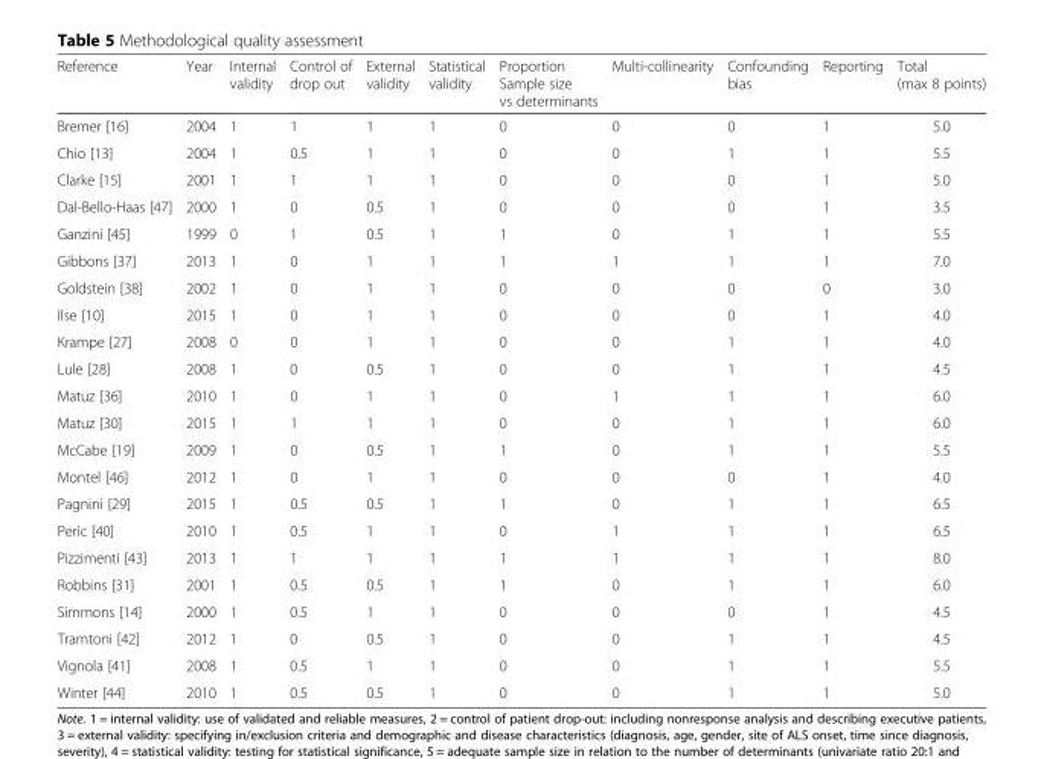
<table><thead><tr><td>Reference</td><td>Year</td><td>Internal validity</td><td>Control of drop out</td><td>External validity</td><td>Statistical validity</td><td>Proportion Sample size vs determinants</td><td>Multi-collinearity</td><td>Confounding bias</td><td>Reporting</td><td>Total (max 8 points)</td></tr></thead><tbody><tr><td>Bremer [16]</td><td>2004</td><td>1</td><td>1</td><td>1</td><td>1</td><td>0</td><td>0</td><td>0</td><td>1</td><td>5.0</td></tr><tr><td>Chio [13]</td><td>2004</td><td>1</td><td>0.5</td><td>1</td><td>1</td><td>0</td><td>0</td><td>1</td><td>1</td><td>5.5</td></tr><tr><td>Clarke [15]</td><td>2001</td><td>1</td><td>1</td><td>1</td><td>1</td><td>0</td><td>0</td><td>0</td><td>1</td><td>5.0</td></tr><tr><td>Dal-Bello-Haas [47]</td><td>2000</td><td>1</td><td>0</td><td>0.5</td><td>1</td><td>0</td><td>0</td><td>0</td><td>1</td><td>3.5</td></tr><tr><td>Ganzini [45]</td><td>1999</td><td>0</td><td>1</td><td>0.5</td><td>1</td><td>1</td><td>0</td><td>1</td><td>1</td><td>5.5</td></tr><tr><td>Gibbons [37]</td><td>2013</td><td>1</td><td>0</td><td>1</td><td>1</td><td>1</td><td>1</td><td>1</td><td>1</td><td>7.0</td></tr><tr><td>Goldstein [38]</td><td>2002</td><td>1</td><td>0</td><td>1</td><td>1</td><td>0</td><td>0</td><td>0</td><td>0</td><td>3.0</td></tr><tr><td>Ilse [10]</td><td>2015</td><td>1</td><td>0</td><td>1</td><td>1</td><td>0</td><td>0</td><td>0</td><td>1</td><td>4.0</td></tr><tr><td>Krampe [27]</td><td>2008</td><td>0</td><td>0</td><td>1</td><td>1</td><td>0</td><td>0</td><td>1</td><td>1</td><td>4.0</td></tr><tr><td>Lule [28]</td><td>2008</td><td>1</td><td>0</td><td>0.5</td><td>1</td><td>0</td><td>0</td><td>1</td><td>1</td><td>4.5</td></tr><tr><td>Matuz [36]</td><td>2010</td><td>1</td><td>0</td><td>1</td><td>1</td><td>0</td><td>1</td><td>1</td><td>1</td><td>6.0</td></tr><tr><td>Matuz [30]</td><td>2015</td><td>1</td><td>1</td><td>1</td><td>1</td><td>0</td><td>0</td><td>1</td><td>1</td><td>6.0</td></tr><tr><td>McCabe [19]</td><td>2009</td><td>1</td><td>0</td><td>0.5</td><td>1</td><td>1</td><td>0</td><td>1</td><td>1</td><td>5.5</td></tr><tr><td>Montel [46]</td><td>2012</td><td>1</td><td>0</td><td>1</td><td>1</td><td>0</td><td>0</td><td>0</td><td>1</td><td>4.0</td></tr><tr><td>Pagnini [29]</td><td>2015</td><td>1</td><td>0.5</td><td>0.5</td><td>1</td><td>1</td><td>0</td><td>1</td><td>1</td><td>6.5</td></tr><tr><td>Peric [40]</td><td>2010</td><td>1</td><td>0.5</td><td>1</td><td>1</td><td>0</td><td>1</td><td>1</td><td>1</td><td>6.5</td></tr><tr><td>Pizzimenti [43]</td><td>2013</td><td>1</td><td>1</td><td>1</td><td>1</td><td>1</td><td>1</td><td>1</td><td>1</td><td>8.0</td></tr><tr><td>Robbins [31]</td><td>2001</td><td>1</td><td>0.5</td><td>0.5</td><td>1</td><td>1</td><td>0</td><td>1</td><td>1</td><td>6.0</td></tr><tr><td>Simmons [14]</td><td>2000</td><td>1</td><td>0.5</td><td>1</td><td>1</td><td>0</td><td>0</td><td>0</td><td>1</td><td>4.5</td></tr><tr><td>Tramtoni [42]</td><td>2012</td><td>1</td><td>0</td><td>0.5</td><td>1</td><td>0</td><td>0</td><td>1</td><td>1</td><td>4.5</td></tr><tr><td>Vignola [41]</td><td>2008</td><td>1</td><td>0.5</td><td>1</td><td>1</td><td>0</td><td>0</td><td>1</td><td>1</td><td>5.5</td></tr><tr><td>Winter [44]</td><td>2010</td><td>1</td><td>0.5</td><td>0.5</td><td>1</td><td>0</td><td>0</td><td>1</td><td>1</td><td>5.0</td></tr></tbody></table>